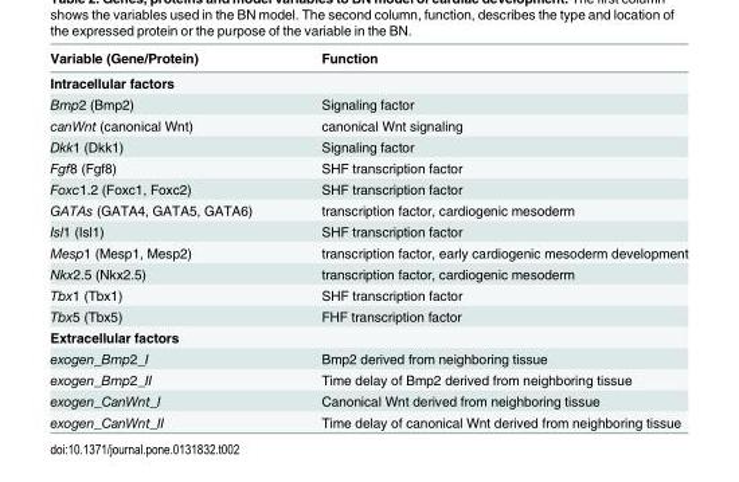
<table><thead><tr><td>Variable (Gene/Protein)</td><td>Function</td></tr></thead><tbody><tr><td colspan="2">Intracellular factors</td></tr><tr><td>Bmp2 (Bmp2)</td><td>Signaling factor</td></tr><tr><td>canWnt (canonical Wnt)</td><td>canonical Wnt signaling</td></tr><tr><td>Dkk1 (Dkk1)</td><td>Signaling factor</td></tr><tr><td>Fgf8 (Fgf8)</td><td>SHF transcription factor</td></tr><tr><td>Foxc1.2 (Foxc1, Foxc2)</td><td>SHF transcription factor</td></tr><tr><td>GATAs (GATA4, GATA5, GATA6)</td><td>transcription factor, cardiogenic mesoderm</td></tr><tr><td>Isl1 (Isl1)</td><td>SHF transcription factor</td></tr><tr><td>Mesp1 (Mesp1, Mesp2)</td><td>transcription factor, early cardiogenic mesoderm development</td></tr><tr><td>Nkx2.5 (Nkx2.5)</td><td>transcription factor, cardiogenic mesoderm</td></tr><tr><td>Tbx1 (Tbx1)</td><td>SHF transcription factor</td></tr><tr><td>Tbx5 (Tbx5)</td><td>FHF transcription factor</td></tr><tr><td colspan="2">Extracellular factors</td></tr><tr><td>exogen_Bmp2_I</td><td>Bmp2 derived from neighboring tissue</td></tr><tr><td>exogen_Bmp2_II</td><td>Time delay of Bmp2 derived from neighboring tissue</td></tr><tr><td>exogen_CanWnt_I</td><td>Canonical Wnt derived from neighboring tissue</td></tr><tr><td>exogen_CanWnt_II</td><td>Time delay of canonical Wnt derived from neighboring tissue</td></tr></tbody></table>